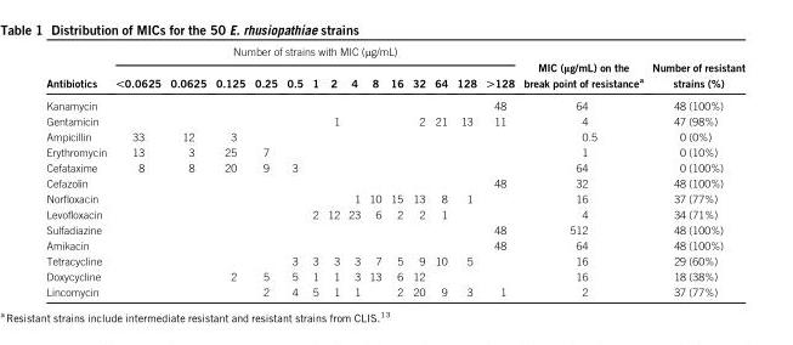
<table><thead><tr><td rowspan="2">Antibiotics</td><td colspan="14">Number of strains with MIC (μg/mL)</td><td rowspan="2">MIC (μg/mL) on the break point of resistance<sup>a</sup></td><td rowspan="2">Number of resistant strains (%)</td></tr><tr><td>, ,0.0625</td><td>0.0625</td><td>0.125</td><td>0.25</td><td>0.5</td><td>1</td><td>2</td><td>4</td><td>8</td><td>16</td><td>32</td><td>64</td><td>128</td><td>. .128</td></tr></thead><tbody><tr><td>Kanamycin</td><td></td><td></td><td></td><td></td><td></td><td></td><td></td><td></td><td></td><td></td><td></td><td></td><td></td><td>48</td><td>64</td><td>48 (100%)</td></tr><tr><td>Gentamicin</td><td></td><td></td><td></td><td></td><td></td><td></td><td>1</td><td></td><td></td><td></td><td>2</td><td>21</td><td>13</td><td>11</td><td>4</td><td>47 (98%)</td></tr><tr><td>Ampicillin</td><td>33</td><td>12</td><td>3</td><td></td><td></td><td></td><td></td><td></td><td></td><td></td><td></td><td></td><td></td><td></td><td>0.5</td><td>0 (0%)</td></tr><tr><td>Erythromycin</td><td>13</td><td>3</td><td>25</td><td>7</td><td></td><td></td><td></td><td></td><td></td><td></td><td></td><td></td><td></td><td></td><td>1</td><td>0 (10%)</td></tr><tr><td>Cefataxime</td><td>8</td><td>8</td><td>20</td><td>9</td><td>3</td><td></td><td></td><td></td><td></td><td></td><td></td><td></td><td></td><td></td><td>64</td><td>0 (100%)</td></tr><tr><td>Cefazolin</td><td></td><td></td><td></td><td></td><td></td><td></td><td></td><td></td><td></td><td></td><td></td><td></td><td></td><td>48</td><td>32</td><td>48 (100%)</td></tr><tr><td>Norfloxacin</td><td></td><td></td><td></td><td></td><td></td><td></td><td></td><td>1</td><td>10</td><td>15</td><td>13</td><td>8</td><td>1</td><td></td><td>16</td><td>37 (77%)</td></tr><tr><td>Levofloxacin</td><td></td><td></td><td></td><td></td><td></td><td>2</td><td>12</td><td>23</td><td>6</td><td>2</td><td>2</td><td>1</td><td></td><td></td><td>4</td><td>34 (71%)</td></tr><tr><td>Sulfadiazine</td><td></td><td></td><td></td><td></td><td></td><td></td><td></td><td></td><td></td><td></td><td></td><td></td><td></td><td>48</td><td>512</td><td>48 (100%)</td></tr><tr><td>Amikacin</td><td></td><td></td><td></td><td></td><td></td><td></td><td></td><td></td><td></td><td></td><td></td><td></td><td></td><td>48</td><td>64</td><td>48 (100%)</td></tr><tr><td>Tetracycline</td><td></td><td></td><td></td><td></td><td>3</td><td>3</td><td>3</td><td>3</td><td>7</td><td>5</td><td>9</td><td>10</td><td>5</td><td></td><td>16</td><td>29 (60%)</td></tr><tr><td>Doxycycline</td><td></td><td></td><td>2</td><td>5</td><td>5</td><td>1</td><td>1</td><td>3</td><td>13</td><td>6</td><td>12</td><td></td><td></td><td></td><td>16</td><td>18 (38%)</td></tr><tr><td>Lincomycin</td><td></td><td></td><td></td><td>2</td><td>4</td><td>5</td><td>1</td><td>1</td><td></td><td>2</td><td>20</td><td>9</td><td>3</td><td>1</td><td>2</td><td>37 (77%)</td></tr></tbody></table>